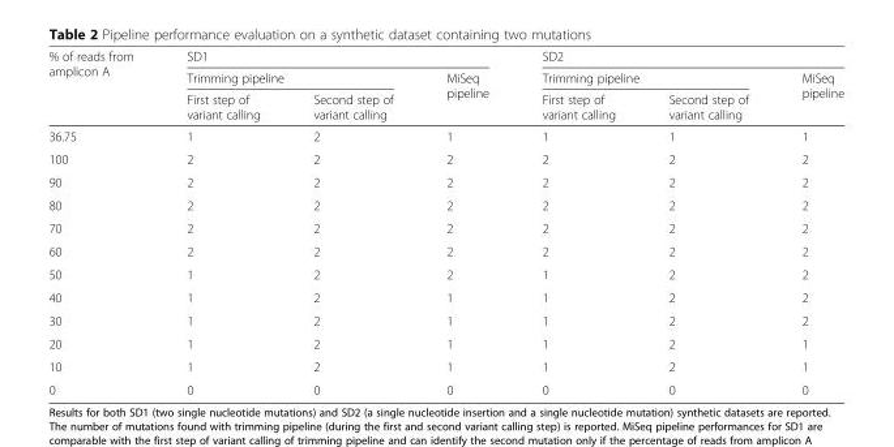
<table><thead><tr><td rowspan="3">% of reads from amplicon A</td><td colspan="3">SD1</td><td colspan="3">SD2</td></tr><tr><td colspan="2">Trimming pipeline</td><td rowspan="2">MiSeq pipeline</td><td colspan="2">Trimming pipeline</td><td rowspan="2">MiSeq pipeline</td></tr><tr><td>First step of variant calling</td><td>Second step of variant calling</td><td>First step of variant calling</td><td>Second step of variant calling</td></tr></thead><tbody><tr><td>36.75</td><td>1</td><td>2</td><td>1</td><td>1</td><td>1</td><td>1</td></tr><tr><td>100</td><td>2</td><td>2</td><td>2</td><td>2</td><td>2</td><td>2</td></tr><tr><td>90</td><td>2</td><td>2</td><td>2</td><td>2</td><td>2</td><td>2</td></tr><tr><td>80</td><td>2</td><td>2</td><td>2</td><td>2</td><td>2</td><td>2</td></tr><tr><td>70</td><td>2</td><td>2</td><td>2</td><td>2</td><td>2</td><td>2</td></tr><tr><td>60</td><td>2</td><td>2</td><td>2</td><td>2</td><td>2</td><td>2</td></tr><tr><td>50</td><td>1</td><td>2</td><td>2</td><td>1</td><td>2</td><td>2</td></tr><tr><td>40</td><td>1</td><td>2</td><td>1</td><td>1</td><td>2</td><td>2</td></tr><tr><td>30</td><td>1</td><td>2</td><td>1</td><td>1</td><td>2</td><td>2</td></tr><tr><td>20</td><td>1</td><td>2</td><td>1</td><td>1</td><td>2</td><td>1</td></tr><tr><td>10</td><td>1</td><td>2</td><td>1</td><td>1</td><td>2</td><td>1</td></tr><tr><td>0</td><td>0</td><td>0</td><td>0</td><td>0</td><td>0</td><td>0</td></tr></tbody></table>